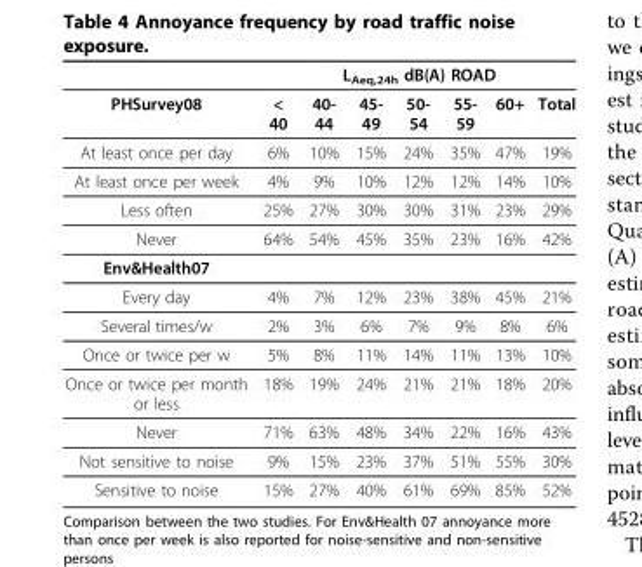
<table><thead><tr><td rowspan="2">PHSurvey08</td><td colspan="7">L<sub>Aeq,24h</sub> dB(A) ROAD</td></tr><tr><td>&lt; 40</td><td>40- 44</td><td>45- 49</td><td>50- 54</td><td>55- 59</td><td>60+</td><td>Total</td></tr></thead><tbody><tr><td>At least once per day</td><td>6%</td><td>10%</td><td>15%</td><td>24%</td><td>35%</td><td>47%</td><td>19%</td></tr><tr><td>At least once per week</td><td>4%</td><td>9%</td><td>10%</td><td>12%</td><td>12%</td><td>14%</td><td>10%</td></tr><tr><td>Less often</td><td>25%</td><td>27%</td><td>30%</td><td>30%</td><td>31%</td><td>23%</td><td>29%</td></tr><tr><td>Never</td><td>64%</td><td>54%</td><td>45%</td><td>35%</td><td>23%</td><td>16%</td><td>42%</td></tr><tr><td colspan="8">Env&amp;Health07</td></tr><tr><td>Every day</td><td>4%</td><td>7%</td><td>12%</td><td>23%</td><td>38%</td><td>45%</td><td>21%</td></tr><tr><td>Several times/w</td><td>2%</td><td>3%</td><td>6%</td><td>7%</td><td>9%</td><td>8%</td><td>6%</td></tr><tr><td>Once or twice per w</td><td>5%</td><td>8%</td><td>11%</td><td>14%</td><td>11%</td><td>13%</td><td>10%</td></tr><tr><td>Once or twice per month or less</td><td>18%</td><td>19%</td><td>24%</td><td>21%</td><td>21%</td><td>18%</td><td>20%</td></tr><tr><td>Never</td><td>71%</td><td>63%</td><td>48%</td><td>34%</td><td>22%</td><td>16%</td><td>43%</td></tr><tr><td>Not sensitive to noise</td><td>9%</td><td>15%</td><td>23%</td><td>37%</td><td>51%</td><td>55%</td><td>30%</td></tr><tr><td>Sensitive to noise</td><td>15%</td><td>27%</td><td>40%</td><td>61%</td><td>69%</td><td>85%</td><td>52%</td></tr></tbody></table>